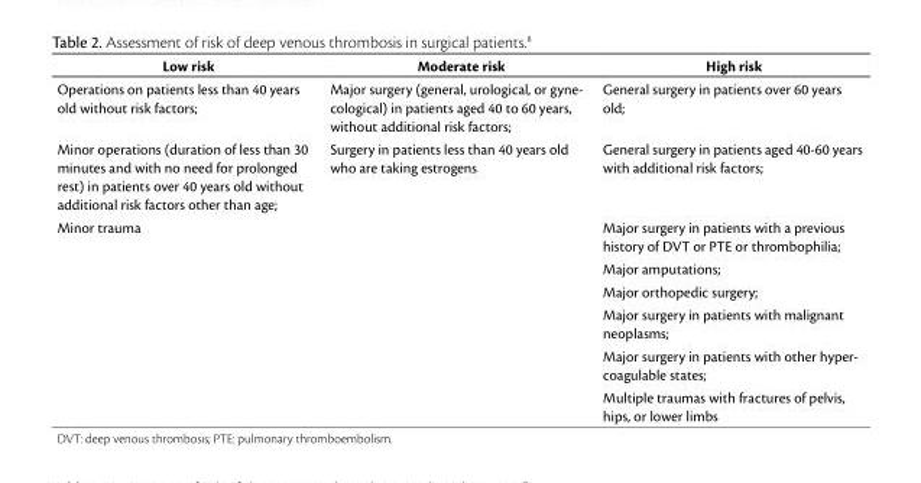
<table><thead><tr><td>Low risk</td><td>Moderate risk</td><td>High risk</td></tr></thead><tbody><tr><td>Operations on patients less than 40 years old without risk factors;</td><td>Major surgery (general, urological, or gyne- cological) in patients aged 40 to 60 years, without additional risk factors;</td><td>General surgery in patients over 60 years old;</td></tr><tr><td>Minor operations (duration of less than 30 minutes and with no need for prolonged rest) in patients over 40 years old without additional risk factors other than age;</td><td>Surgery in patients less than 40 years old who are taking estrogens</td><td>General surgery in patients aged 40-60 years with additional risk factors;</td></tr><tr><td rowspan="6">Minor trauma</td><td></td><td>Major surgery in patients with a previous history of DVT or PTE or thrombophilia;</td></tr><tr><td></td><td>Major amputations;</td></tr><tr><td></td><td>Major orthopedic surgery;</td></tr><tr><td></td><td>Major surgery in patients with malignant neoplasms;</td></tr><tr><td></td><td>Major surgery in patients with other hyper- coagulable states;</td></tr><tr><td></td><td>Multiple traumas with fractures of pelvis, hips, or lower limbs</td></tr></tbody></table>